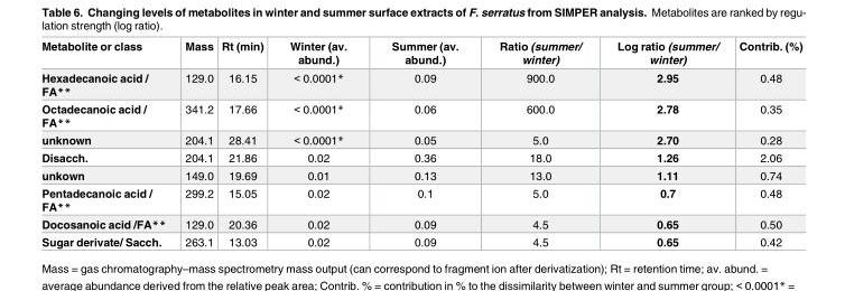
<table><thead><tr><td>Metabolite or class</td><td>Mass</td><td>Rt (min)</td><td>Winter (av. abund.)</td><td>Summer (av. abund.)</td><td>Ratio (summer/ winter)</td><td>Log ratio (summer/ winter)</td><td>Contrib. (%)</td></tr></thead><tbody><tr><td>Hexadecanoic acid / FA**</td><td>129.0</td><td>16.15</td><td>&lt; 0.0001*</td><td>0.09</td><td>900.0</td><td>2.95</td><td>0.48</td></tr><tr><td>Octadecanoic acid / FA**</td><td>341.2</td><td>17.66</td><td>&lt; 0.0001*</td><td>0.06</td><td>600.0</td><td>2.78</td><td>0.35</td></tr><tr><td>unknown</td><td>204.1</td><td>28.41</td><td>&lt; 0.0001*</td><td>0.05</td><td>5.0</td><td>2.70</td><td>0.28</td></tr><tr><td>Disacch.</td><td>204.1</td><td>21.86</td><td>0.02</td><td>0.36</td><td>18.0</td><td>1.26</td><td>2.06</td></tr><tr><td>unkown</td><td>149.0</td><td>19.69</td><td>0.01</td><td>0.13</td><td>13.0</td><td>1.11</td><td>0.74</td></tr><tr><td>Pentadecanoic acid / FA**</td><td>299.2</td><td>15.05</td><td>0.02</td><td>0.1</td><td>5.0</td><td>0.7</td><td>0.48</td></tr><tr><td>Docosanoic acid /FA**</td><td>129.0</td><td>20.36</td><td>0.02</td><td>0.09</td><td>4.5</td><td>0.65</td><td>0.50</td></tr><tr><td>Sugar derivate/ Sacch.</td><td>263.1</td><td>13.03</td><td>0.02</td><td>0.09</td><td>4.5</td><td>0.65</td><td>0.42</td></tr></tbody></table>